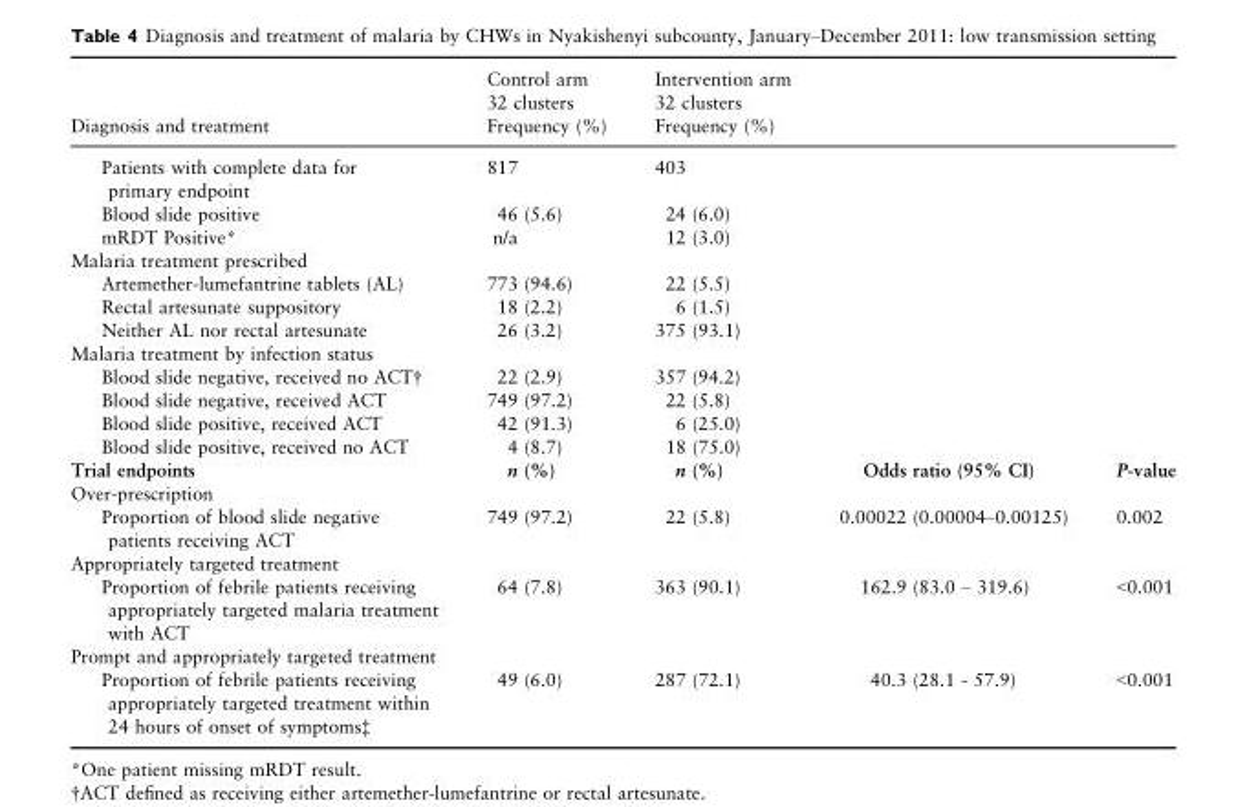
<table><thead><tr><td rowspan="2">Diagnosis and treatment</td><td rowspan="2">Control arm 32 clusters Frequency (%)</td><td rowspan="2">Intervention arm 32 clusters Frequency (%)</td><td rowspan="2"></td><td rowspan="2"></td></tr><tr></tr></thead><tbody><tr><td>Patients with complete data for primary endpoint</td><td>817</td><td>403</td><td></td><td></td></tr><tr><td>Blood slide positive</td><td>46 (5.6)</td><td>24 (6.0)</td><td></td><td></td></tr><tr><td>mRDT Positive*</td><td>n/a</td><td>12 (3.0)</td><td></td><td></td></tr><tr><td colspan="5">Malaria treatment prescribed</td></tr><tr><td>Artemether-lumefantrine tablets (AL)</td><td>773 (94.6)</td><td>22 (5.5)</td><td></td><td></td></tr><tr><td>Rectal artesunate suppository</td><td>18 (2.2)</td><td>6 (1.5)</td><td></td><td></td></tr><tr><td>Neither AL nor rectal artesunate</td><td>26 (3.2)</td><td>375 (93.1)</td><td></td><td></td></tr><tr><td colspan="5">Malaria treatment by infection status</td></tr><tr><td>Blood slide negative, received no ACT†</td><td>22 (2.9)</td><td>357 (94.2)</td><td></td><td></td></tr><tr><td>Blood slide negative, received ACT</td><td>749 (97.2)</td><td>22 (5.8)</td><td></td><td></td></tr><tr><td>Blood slide positive, received ACT</td><td>42 (91.3)</td><td>6 (25.0)</td><td></td><td></td></tr><tr><td>Blood slide positive, received no ACT</td><td>4 (8.7)</td><td>18 (75.0)</td><td></td><td></td></tr><tr><td>Trial endpoints</td><td>n (%)</td><td>n (%)</td><td>Odds ratio (95% CI)</td><td>P-value</td></tr><tr><td colspan="5">Over-prescription</td></tr><tr><td>Proportion of blood slide negative patients receiving ACT</td><td>749 (97.2)</td><td>22 (5.8)</td><td>0.00022 (0.00004–0.00125)</td><td>0.002</td></tr><tr><td colspan="5">Appropriately targeted treatment</td></tr><tr><td>Proportion of febrile patients receiving appropriately targeted malaria treatment with ACT</td><td>64 (7.8)</td><td>363 (90.1)</td><td>162.9 (83.0 – 319.6)</td><td>&lt;0.001</td></tr><tr><td colspan="5">Prompt and appropriately targeted treatment</td></tr><tr><td>Proportion of febrile patients receiving appropriately targeted treatment within 24 hours of onset of symptoms‡</td><td>49 (6.0)</td><td>287 (72.1)</td><td>40.3 (28.1 - 57.9)</td><td>&lt;0.001</td></tr></tbody></table>